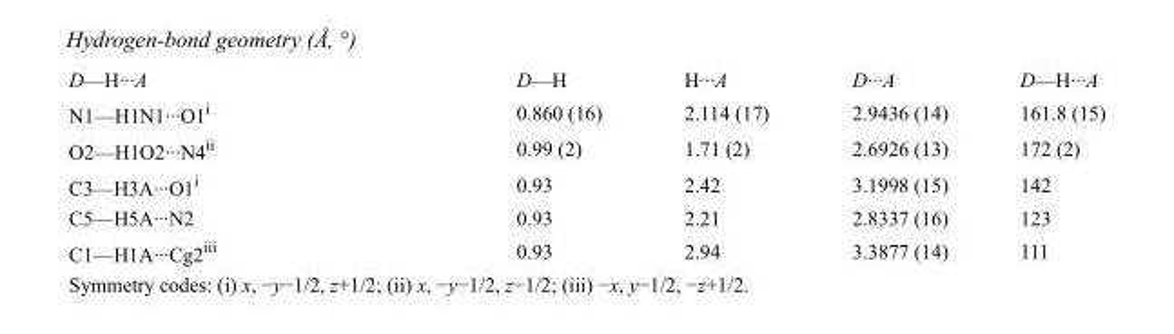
<table><tbody><tr><td>D—H···A</td><td>D—H</td><td>H···A</td><td>D···A</td><td>D—H···A</td></tr><tr><td>N1—H1N1···O1<sup>i</sup></td><td>0.860 (16)</td><td>2.114 (17)</td><td>2.9436 (14)</td><td>161.8 (15)</td></tr><tr><td>O2—H1O2···N4<sup>ii</sup></td><td>0.99 (2)</td><td>1.71 (2)</td><td>2.6926 (13)</td><td>172 (2)</td></tr><tr><td>C3—H3A···O1<sup>i</sup></td><td>0.93</td><td>2.42</td><td>3.1998 (15)</td><td>142</td></tr><tr><td>C5—H5A···N2</td><td>0.93</td><td>2.21</td><td>2.8337 (16)</td><td>123</td></tr><tr><td>C1—H1A···Cg2<sup>iii</sup></td><td>0.93</td><td>2.94</td><td>3.3877 (14)</td><td>111</td></tr></tbody></table>